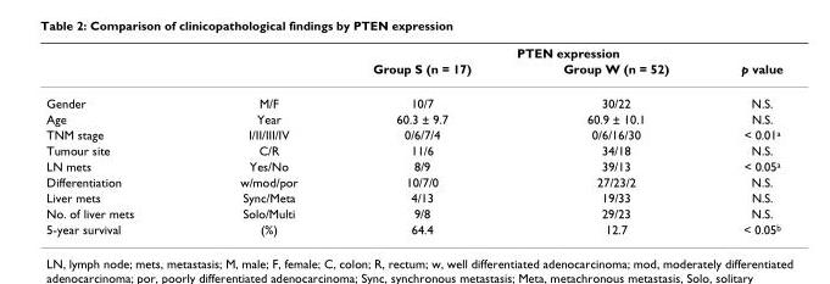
<table><thead><tr><td rowspan="2"></td><td rowspan="2"></td><td colspan="3">PTEN expression</td></tr><tr><td>Group S (n = 17)</td><td>Group W (n = 52)</td><td>p value</td></tr></thead><tbody><tr><td>Gender</td><td>M/F</td><td>10/7</td><td>30/22</td><td>N.S.</td></tr><tr><td>Age</td><td>Year</td><td>60.3 ± 9.7</td><td>60.9 ± 10.1</td><td>N.S.</td></tr><tr><td>TNM stage</td><td>I/II/III/IV</td><td>0/6/7/4</td><td>0/6/16/30</td><td>&lt; 0.01<sup>a</sup></td></tr><tr><td>Tumour site</td><td>C/R</td><td>11/6</td><td>34/18</td><td>N.S.</td></tr><tr><td>LN mets</td><td>Yes/No</td><td>8/9</td><td>39/13</td><td>&lt; 0.05<sup>a</sup></td></tr><tr><td>Differentiation</td><td>w/mod/por</td><td>10/7/0</td><td>27/23/2</td><td>N.S.</td></tr><tr><td>Liver mets</td><td>Sync/Meta</td><td>4/13</td><td>19/33</td><td>N.S.</td></tr><tr><td>No. of liver mets</td><td>Solo/Multi</td><td>9/8</td><td>29/23</td><td>N.S.</td></tr><tr><td>5-year survival</td><td>(%)</td><td>64.4</td><td>12.7</td><td>&lt; 0.05<sup>b</sup></td></tr></tbody></table>